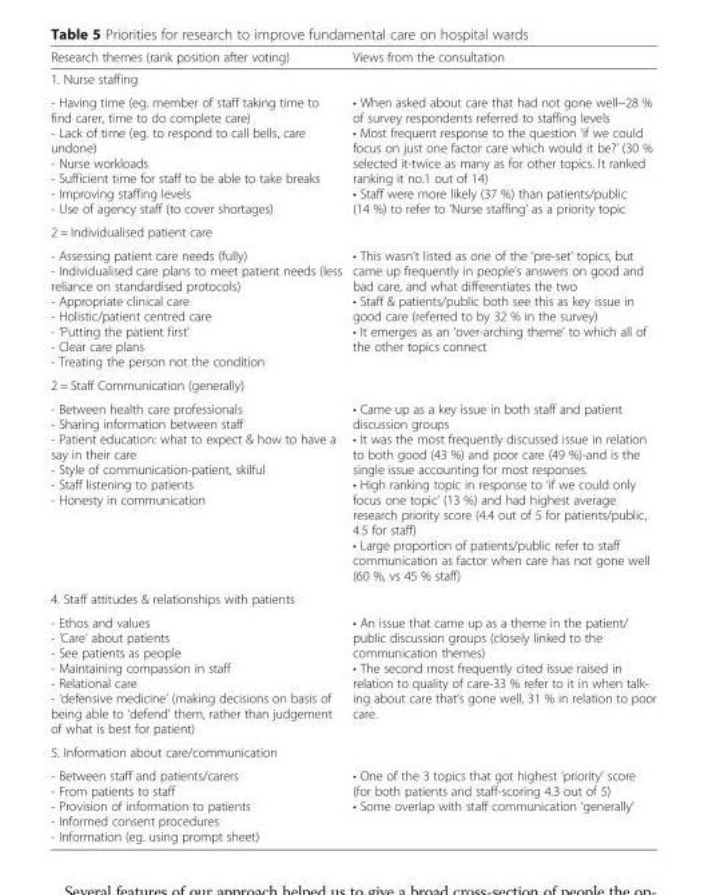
<table><thead><tr><td>Research themes (rank position after voting)</td><td>Views from the consultation</td></tr></thead><tbody><tr><td colspan="2">1. Nurse staffing</td></tr><tr><td>- Having time (eg. member of staff taking time to find carer, time to do complete care) - Lack of time (eg. to respond to call bells, care undone) - Nurse workloads - Sufficient time for staff to be able to take breaks - Improving staffing levels - Use of agency staff (to cover shortages)</td><td>• When asked about care that had not gone well−28 % of survey respondents referred to staffing levels • Most frequent response to the question ‘if we could focus on just one factor care which would it be?’ (30 % selected it-twice as many as for other topics. It ranked ranking it no.1 out of 14) • Staff were more likely (37 %) than patients/public (14 %) to refer to ‘Nurse staffing’ as a priority topic</td></tr><tr><td colspan="2">2 = Individualised patient care</td></tr><tr><td>- Assessing patient care needs (fully) - Individualised care plans to meet patient needs (less reliance on standardised protocols) - Appropriate clinical care - Holistic/patient centred care - ‘Putting the patient first’ - Clear care plans - Treating the person not the condition</td><td>• This wasn’t listed as one of the ‘pre-set’ topics, but came up frequently in people’s answers on good and bad care, and what differentiates the two • Staff &amp; patients/public both see this as key issue in good care (referred to by 32 % in the survey) • It emerges as an ‘over-arching theme’ to which all of the other topics connect</td></tr><tr><td colspan="2">2 = Staff Communication (generally)</td></tr><tr><td>- Between health care professionals - Sharing information between staff - Patient education: what to expect &amp; how to have a say in their care - Style of communication-patient, skilful - Staff listening to patients - Honesty in communication</td><td>• Came up as a key issue in both staff and patient discussion groups • It was the most frequently discussed issue in relation to both good (43 %) and poor care (49 %)-and is the single issue accounting for most responses. • High ranking topic in response to ‘if we could only focus one topic’ (13 %) and had highest average research priority score (4.4 out of 5 for patients/public, 4.5 for staff) • Large proportion of patients/public refer to staff communication as factor when care has not gone well (60 %, vs 45 % staff)</td></tr><tr><td colspan="2">4. Staff attitudes &amp; relationships with patients</td></tr><tr><td>- Ethos and values - ‘Care’ about patients - See patients as people - Maintaining compassion in staff - Relational care - ‘defensive medicine’ (making decisions on basis of being able to ‘defend’ them, rather than judgement of what is best for patient)</td><td>• An issue that came up as a theme in the patient/ public discussion groups (closely linked to the communication themes) • The second most frequently cited issue raised in relation to quality of care-33 % refer to it in when talk- ing about care that’s gone well, 31 % in relation to poor care.</td></tr><tr><td colspan="2">5. Information about care/communication</td></tr><tr><td>- Between staff and patients/carers - From patients to staff - Provision of information to patients - Informed consent procedures - Information (eg. using prompt sheet)</td><td>• One of the 3 topics that got highest ‘priority’ score (for both patients and staff-scoring 4.3 out of 5) • Some overlap with staff communication ‘generally’</td></tr></tbody></table>